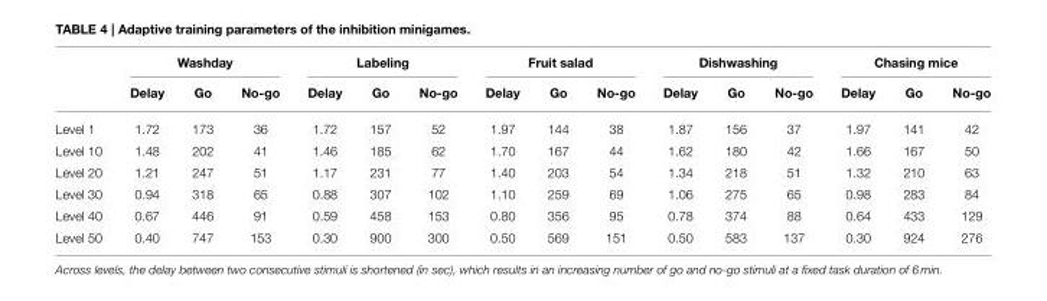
<table><thead><tr><td rowspan="2"></td><td colspan="3">Washday</td><td colspan="3">Labeling</td><td colspan="3">Fruit salad</td><td colspan="3">Dishwashing</td><td colspan="3">Chasing mice</td></tr><tr><td>Delay</td><td>Go</td><td>No-go</td><td>Delay</td><td>Go</td><td>No-go</td><td>Delay</td><td>Go</td><td>No-go</td><td>Delay</td><td>Go</td><td>No-go</td><td>Delay</td><td>Go</td><td>No-go</td></tr></thead><tbody><tr><td>Level 1</td><td>1.72</td><td>173</td><td>36</td><td>1.72</td><td>157</td><td>52</td><td>1.97</td><td>144</td><td>38</td><td>1.87</td><td>156</td><td>37</td><td>1.97</td><td>141</td><td>42</td></tr><tr><td>Level 10</td><td>1.48</td><td>202</td><td>41</td><td>1.46</td><td>185</td><td>62</td><td>1.70</td><td>167</td><td>44</td><td>1.62</td><td>180</td><td>42</td><td>1.66</td><td>167</td><td>50</td></tr><tr><td>Level 20</td><td>1.21</td><td>247</td><td>51</td><td>1.17</td><td>231</td><td>77</td><td>1.40</td><td>203</td><td>54</td><td>1.34</td><td>218</td><td>51</td><td>1.32</td><td>210</td><td>63</td></tr><tr><td>Level 30</td><td>0.94</td><td>318</td><td>65</td><td>0.88</td><td>307</td><td>102</td><td>1.10</td><td>259</td><td>69</td><td>1.06</td><td>275</td><td>65</td><td>0.98</td><td>283</td><td>84</td></tr><tr><td>Level 40</td><td>0.67</td><td>446</td><td>91</td><td>0.59</td><td>458</td><td>153</td><td>0.80</td><td>356</td><td>95</td><td>0.78</td><td>374</td><td>88</td><td>0.64</td><td>433</td><td>129</td></tr><tr><td>Level 50</td><td>0.40</td><td>747</td><td>153</td><td>0.30</td><td>900</td><td>300</td><td>0.50</td><td>569</td><td>151</td><td>0.50</td><td>583</td><td>137</td><td>0.30</td><td>924</td><td>276</td></tr></tbody></table>